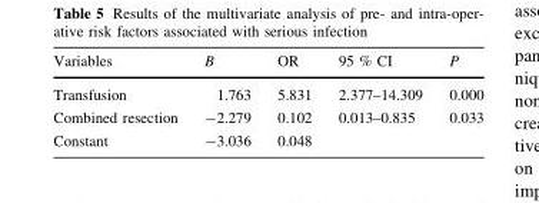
<table><thead><tr><td>Variables</td><td>B</td><td>OR</td><td>95 % CI</td><td>P</td></tr></thead><tbody><tr><td>Transfusion</td><td>1.763</td><td>5.831</td><td>2.377–14.309</td><td>0.000</td></tr><tr><td>Combined resection</td><td>-2.279</td><td>0.102</td><td>0.013–0.835</td><td>0.033</td></tr><tr><td>Constant</td><td>-3.036</td><td>0.048</td><td></td><td></td></tr></tbody></table>